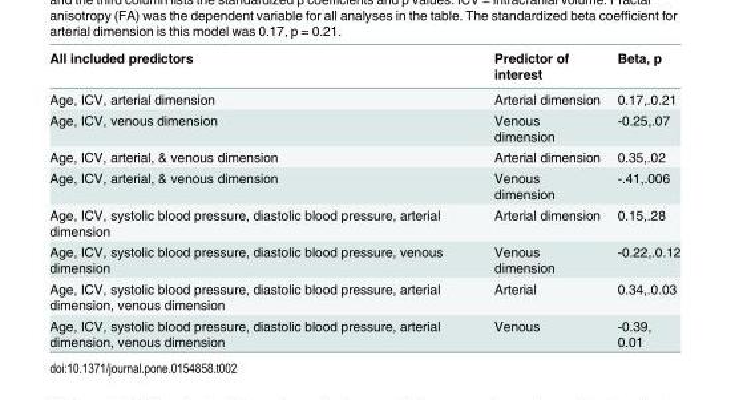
<table><thead><tr><td>All included predictors</td><td>Predictor of interest</td><td>Beta, p</td></tr></thead><tbody><tr><td>Age, ICV, arterial dimension</td><td>Arterial dimension</td><td>0.17,.0.21</td></tr><tr><td>Age, ICV, venous dimension</td><td>Venous dimension</td><td>-0.25,.07</td></tr><tr><td>Age, ICV, arterial, &amp; venous dimension</td><td>Arterial dimension</td><td>0.35,.02</td></tr><tr><td>Age, ICV, arterial, &amp; venous dimension</td><td>Venous dimension</td><td>-.41,.006</td></tr><tr><td>Age, ICV, systolic blood pressure, diastolic blood pressure, arterial dimension</td><td>Arterial dimension</td><td>0.15,.28</td></tr><tr><td>Age, ICV, systolic blood pressure, diastolic blood pressure, venous dimension</td><td>Venous dimension</td><td>-0.22,.0.12</td></tr><tr><td>Age, ICV, systolic blood pressure, diastolic blood pressure, arterial dimension, venous dimension</td><td>Arterial</td><td>0.34,.0.03</td></tr><tr><td>Age, ICV, systolic blood pressure, diastolic blood pressure, arterial dimension, venous dimension</td><td>Venous</td><td>-0.39, 0.01</td></tr></tbody></table>